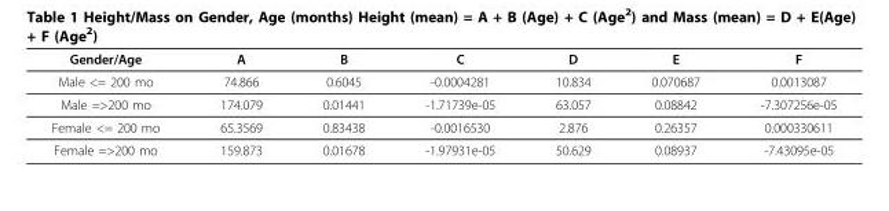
<table><thead><tr><td>Gender/Age</td><td>A</td><td>B</td><td>C</td><td>D</td><td>E</td><td>F</td></tr></thead><tbody><tr><td>Male &lt;= 200 mo</td><td>74.866</td><td>0.6045</td><td>-0.0004281</td><td>10.834</td><td>0.070687</td><td>0.0013087</td></tr><tr><td>Male =&gt;200 mo</td><td>174.079</td><td>0.01441</td><td>-1.71739e-05</td><td>63.057</td><td>0.08842</td><td>-7.307256e-05</td></tr><tr><td>Female &lt;= 200 mo</td><td>65.3569</td><td>0.83438</td><td>-0.0016530</td><td>2.876</td><td>0.26357</td><td>0.000330611</td></tr><tr><td>Female =&gt;200 mo</td><td>159.873</td><td>0.01678</td><td>-1.97931e-05</td><td>50.629</td><td>0.08937</td><td>-7.43095e-05</td></tr></tbody></table>